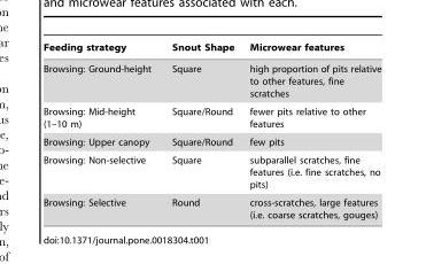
<table><thead><tr><td>Feeding strategy</td><td>Snout Shape</td><td>Microwear features</td></tr></thead><tbody><tr><td>Browsing: Ground-height</td><td>Square</td><td>high proportion of pits relative to other features, fine scratches</td></tr><tr><td>Browsing: Mid-height (1–10 m)</td><td>Square/Round</td><td>fewer pits relative to other features</td></tr><tr><td>Browsing: Upper canopy</td><td>Square/Round</td><td>few pits</td></tr><tr><td>Browsing: Non-selective</td><td>Square</td><td>subparallel scratches, fine features (i.e. fine scratches, no pits)</td></tr><tr><td>Browsing: Selective</td><td>Round</td><td>cross-scratches, large features (i.e. coarse scratches, gouges)</td></tr></tbody></table>